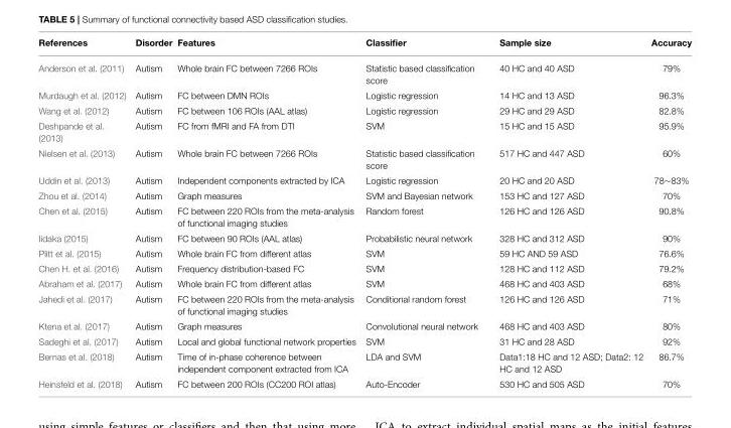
<table><thead><tr><td>References</td><td>Disorder</td><td>Features</td><td>Classifier</td><td>Sample size</td><td>Accuracy</td></tr></thead><tbody><tr><td>Anderson et al. (2011)</td><td>Autism</td><td>Whole brain FC between 7266 ROIs</td><td>Statistic based classification score</td><td>40 HC and 40 ASD</td><td>79%</td></tr><tr><td>Murdaugh et al. (2012)</td><td>Autism</td><td>FC between DMN ROIs</td><td>Logistic regression</td><td>14 HC and 13 ASD</td><td>96.3%</td></tr><tr><td>Wang et al. (2012)</td><td>Autism</td><td>FC between 106 ROIs (AAL atlas)</td><td>Logistic regression</td><td>29 HC and 29 ASD</td><td>82.8%</td></tr><tr><td>Deshpande et al. (2013)</td><td>Autism</td><td>FC from fMRI and FA from DTI</td><td>SVM</td><td>15 HC and 15 ASD</td><td>95.9%</td></tr><tr><td>Nielsen et al. (2013)</td><td>Autism</td><td>Whole brain FC between 7266 ROIs</td><td>Statistic based classification score</td><td>517 HC and 447 ASD</td><td>60%</td></tr><tr><td>Uddin et al. (2013)</td><td>Autism</td><td>Independent components extracted by ICA</td><td>Logistic regression</td><td>20 HC and 20 ASD</td><td>78∼83%</td></tr><tr><td>Zhou et al. (2014)</td><td>Autism</td><td>Graph measures</td><td>SVM and Bayesian network</td><td>153 HC and 127 ASD</td><td>70%</td></tr><tr><td>Chen et al. (2015)</td><td>Autism</td><td>FC between 220 ROIs from the meta-analysis of functional imaging studies</td><td>Random forest</td><td>126 HC and 126 ASD</td><td>90.8%</td></tr><tr><td>Iidaka (2015)</td><td>Autism</td><td>FC between 90 ROIs (AAL atlas)</td><td>Probabilistic neural network</td><td>328 HC and 312 ASD</td><td>90%</td></tr><tr><td>Plitt et al. (2015)</td><td>Autism</td><td>Whole brain FC from different atlas</td><td>SVM</td><td>59 HC AND 59 ASD</td><td>76.6%</td></tr><tr><td>Chen H. et al. (2016)</td><td>Autism</td><td>Frequency distribution-based FC</td><td>SVM</td><td>128 HC and 112 ASD</td><td>79.2%</td></tr><tr><td>Abraham et al. (2017)</td><td>Autism</td><td>Whole brain FC from different atlas</td><td>SVM</td><td>468 HC and 403 ASD</td><td>68%</td></tr><tr><td>Jahedi et al. (2017)</td><td>Autism</td><td>FC between 220 ROIs from the meta-analysis of functional imaging studies</td><td>Conditional random forest</td><td>126 HC and 126 ASD</td><td>71%</td></tr><tr><td>Ktena et al. (2017)</td><td>Autism</td><td>Graph measures</td><td>Convolutional neural network</td><td>468 HC and 403 ASD</td><td>80%</td></tr><tr><td>Sadeghi et al. (2017)</td><td>Autism</td><td>Local and global functional network properties</td><td>SVM</td><td>31 HC and 28 ASD</td><td>92%</td></tr><tr><td>Bernas et al. (2018)</td><td>Autism</td><td>Time of in-phase coherence between independent component extracted from ICA</td><td>LDA and SVM</td><td>Data1:18 HC and 12 ASD; Data2: 12 HC and 12 ASD</td><td>86.7%</td></tr><tr><td>Heinsfeld et al. (2018)</td><td>Autism</td><td>FC between 200 ROIs (CC200 ROI atlas)</td><td>Auto-Encoder</td><td>530 HC and 505 ASD</td><td>70%</td></tr></tbody></table>